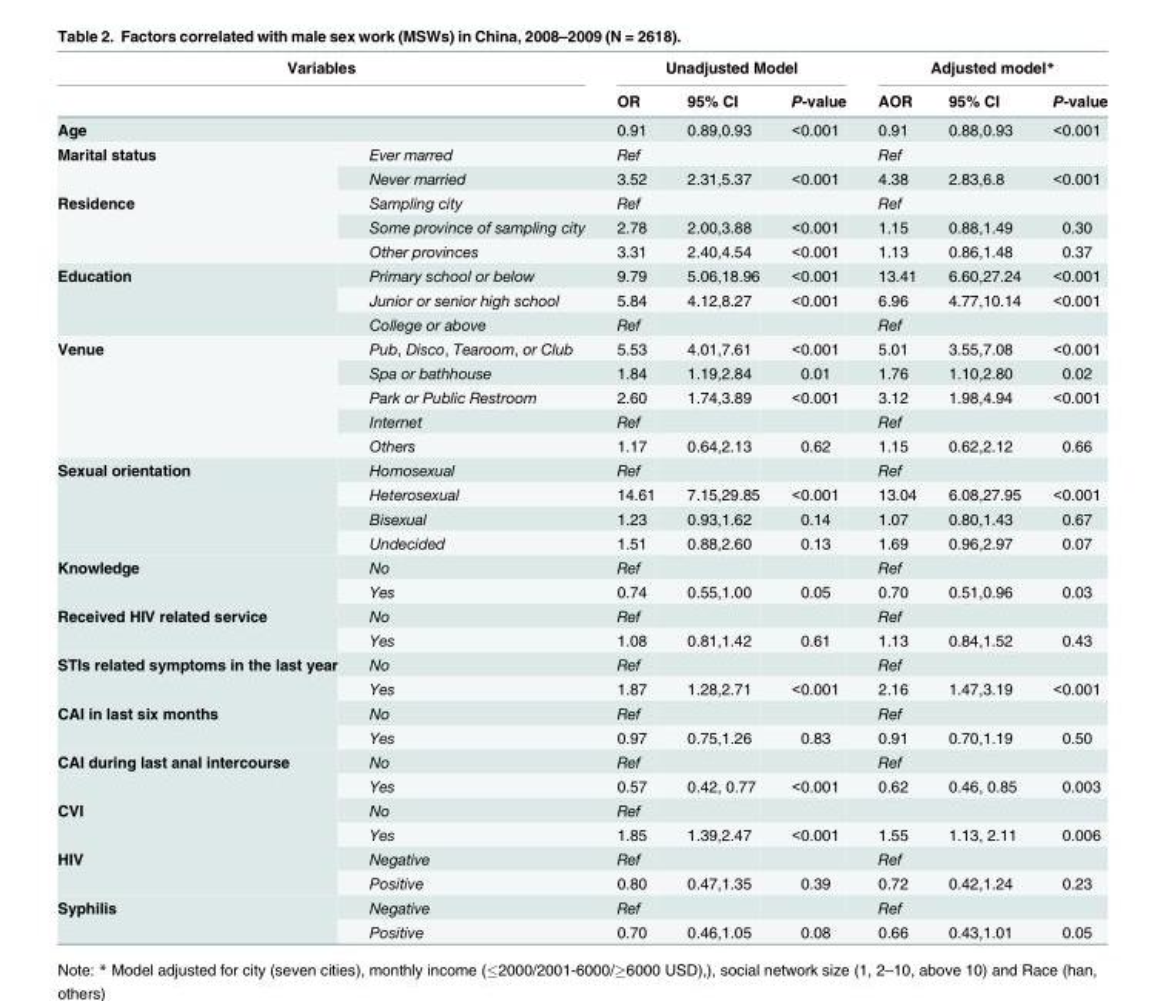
<table><thead><tr><td colspan="2">Variables</td><td colspan="3">Unadjusted Model</td><td colspan="3">Adjusted model*</td></tr><tr><td></td><td></td><td>OR</td><td>95% CI</td><td>P-value</td><td>AOR</td><td>95% CI</td><td>P-value</td></tr></thead><tbody><tr><td>Age</td><td></td><td>0.91</td><td>0.89,0.93</td><td>&lt;0.001</td><td>0.91</td><td>0.88,0.93</td><td>&lt;0.001</td></tr><tr><td rowspan="2">Marital status</td><td>Ever marred</td><td>Ref</td><td></td><td></td><td>Ref</td><td></td><td></td></tr><tr><td>Never married</td><td>3.52</td><td>2.31,5.37</td><td>&lt;0.001</td><td>4.38</td><td>2.83,6.8</td><td>&lt;0.001</td></tr><tr><td rowspan="3">Residence</td><td>Sampling city</td><td>Ref</td><td></td><td></td><td>Ref</td><td></td><td></td></tr><tr><td>Some province of sampling city</td><td>2.78</td><td>2.00,3.88</td><td>&lt;0.001</td><td>1.15</td><td>0.88,1.49</td><td>0.30</td></tr><tr><td>Other provinces</td><td>3.31</td><td>2.40,4.54</td><td>&lt;0.001</td><td>1.13</td><td>0.86,1.48</td><td>0.37</td></tr><tr><td rowspan="3">Education</td><td>Primary school or below</td><td>9.79</td><td>5.06,18.96</td><td>&lt;0.001</td><td>13.41</td><td>6.60,27.24</td><td>&lt;0.001</td></tr><tr><td>Junior or senior high school</td><td>5.84</td><td>4.12,8.27</td><td>&lt;0.001</td><td>6.96</td><td>4.77,10.14</td><td>&lt;0.001</td></tr><tr><td>College or above</td><td>Ref</td><td></td><td></td><td>Ref</td><td></td><td></td></tr><tr><td rowspan="5">Venue</td><td>Pub, Disco, Tearoom, or Club</td><td>5.53</td><td>4.01,7.61</td><td>&lt;0.001</td><td>5.01</td><td>3.55,7.08</td><td>&lt;0.001</td></tr><tr><td>Spa or bathhouse</td><td>1.84</td><td>1.19,2.84</td><td>0.01</td><td>1.76</td><td>1.10,2.80</td><td>0.02</td></tr><tr><td>Park or Public Restroom</td><td>2.60</td><td>1.74,3.89</td><td>&lt;0.001</td><td>3.12</td><td>1.98,4.94</td><td>&lt;0.001</td></tr><tr><td>Internet</td><td>Ref</td><td></td><td></td><td>Ref</td><td></td><td></td></tr><tr><td>Others</td><td>1.17</td><td>0.64,2.13</td><td>0.62</td><td>1.15</td><td>0.62,2.12</td><td>0.66</td></tr><tr><td rowspan="4">Sexual orientation</td><td>Homosexual</td><td>Ref</td><td></td><td></td><td>Ref</td><td></td><td></td></tr><tr><td>Heterosexual</td><td>14.61</td><td>7.15,29.85</td><td>&lt;0.001</td><td>13.04</td><td>6.08,27.95</td><td>&lt;0.001</td></tr><tr><td>Bisexual</td><td>1.23</td><td>0.93,1.62</td><td>0.14</td><td>1.07</td><td>0.80,1.43</td><td>0.67</td></tr><tr><td>Undecided</td><td>1.51</td><td>0.88,2.60</td><td>0.13</td><td>1.69</td><td>0.96,2.97</td><td>0.07</td></tr><tr><td rowspan="2">Knowledge</td><td>No</td><td>Ref</td><td></td><td></td><td>Ref</td><td></td><td></td></tr><tr><td>Yes</td><td>0.74</td><td>0.55,1.00</td><td>0.05</td><td>0.70</td><td>0.51,0.96</td><td>0.03</td></tr><tr><td rowspan="2">Received HIV related service</td><td>No</td><td>Ref</td><td></td><td></td><td>Ref</td><td></td><td></td></tr><tr><td>Yes</td><td>1.08</td><td>0.81,1.42</td><td>0.61</td><td>1.13</td><td>0.84,1.52</td><td>0.43</td></tr><tr><td rowspan="2">STIs related symptoms in the last year</td><td>No</td><td>Ref</td><td></td><td></td><td>Ref</td><td></td><td></td></tr><tr><td>Yes</td><td>1.87</td><td>1.28,2.71</td><td>&lt;0.001</td><td>2.16</td><td>1.47,3.19</td><td>&lt;0.001</td></tr><tr><td rowspan="2">CAI in last six months</td><td>No</td><td>Ref</td><td></td><td></td><td>Ref</td><td></td><td></td></tr><tr><td>Yes</td><td>0.97</td><td>0.75,1.26</td><td>0.83</td><td>0.91</td><td>0.70,1.19</td><td>0.50</td></tr><tr><td rowspan="2">CAI during last anal intercourse</td><td>No</td><td>Ref</td><td></td><td></td><td>Ref</td><td></td><td></td></tr><tr><td>Yes</td><td>0.57</td><td>0.42, 0.77</td><td>&lt;0.001</td><td>0.62</td><td>0.46, 0.85</td><td>0.003</td></tr><tr><td rowspan="2">CVI</td><td>No</td><td>Ref</td><td></td><td></td><td></td><td></td><td></td></tr><tr><td>Yes</td><td>1.85</td><td>1.39,2.47</td><td>&lt;0.001</td><td>1.55</td><td>1.13, 2.11</td><td>0.006</td></tr><tr><td rowspan="2">HIV</td><td>Negative</td><td>Ref</td><td></td><td></td><td>Ref</td><td></td><td></td></tr><tr><td>Positive</td><td>0.80</td><td>0.47,1.35</td><td>0.39</td><td>0.72</td><td>0.42,1.24</td><td>0.23</td></tr><tr><td rowspan="2">Syphilis</td><td>Negative</td><td>Ref</td><td></td><td></td><td>Ref</td><td></td><td></td></tr><tr><td>Positive</td><td>0.70</td><td>0.46,1.05</td><td>0.08</td><td>0.66</td><td>0.43,1.01</td><td>0.05</td></tr></tbody></table>